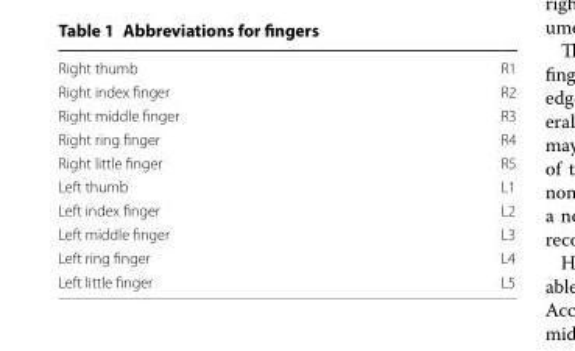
<table><tbody><tr><td>Right thumb</td><td>R1</td></tr><tr><td>Right index finger</td><td>R2</td></tr><tr><td>Right middle finger</td><td>R3</td></tr><tr><td>Right ring finger</td><td>R4</td></tr><tr><td>Right little finger</td><td>R5</td></tr><tr><td>Left thumb</td><td>L1</td></tr><tr><td>Left index finger</td><td>L2</td></tr><tr><td>Left middle finger</td><td>L3</td></tr><tr><td>Left ring finger</td><td>L4</td></tr><tr><td>Left little finger</td><td>L5</td></tr></tbody></table>